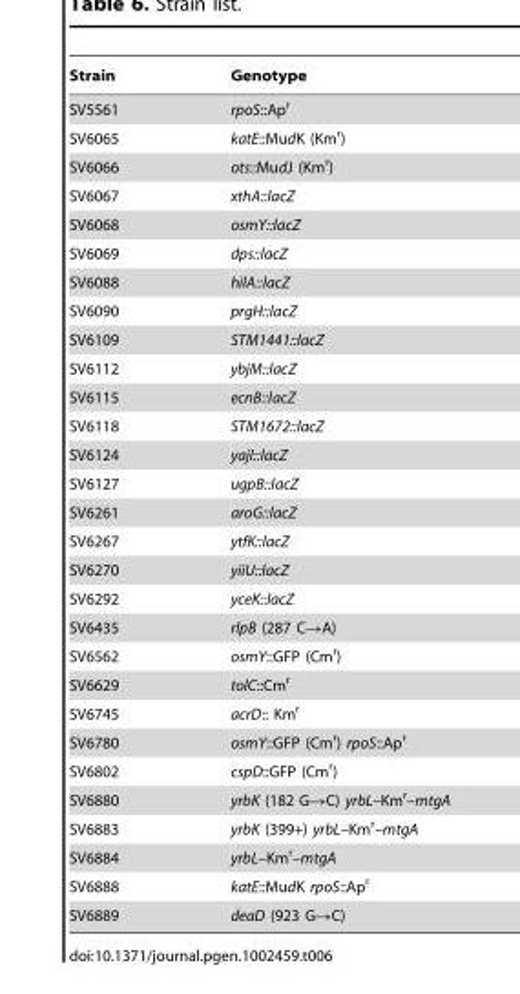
<table><thead><tr><td>Strain</td><td>Genotype</td></tr></thead><tbody><tr><td>SV5561</td><td>rpoS::Ap<sup>r</sup></td></tr><tr><td>SV6065</td><td>katE::MudK (Km<sup>r</sup>)</td></tr><tr><td>SV6066</td><td>ots::MudJ (Km<sup>r</sup>)</td></tr><tr><td>SV6067</td><td>xthA::lacZ</td></tr><tr><td>SV6068</td><td>osmY::lacZ</td></tr><tr><td>SV6069</td><td>dps::lacZ</td></tr><tr><td>SV6088</td><td>hilA::lacZ</td></tr><tr><td>SV6090</td><td>prgH::lacZ</td></tr><tr><td>SV6109</td><td>STM1441::lacZ</td></tr><tr><td>SV6112</td><td>ybjM::lacZ</td></tr><tr><td>SV6115</td><td>ecnB::lacZ</td></tr><tr><td>SV6118</td><td>STM1672::lacZ</td></tr><tr><td>SV6124</td><td>yajI::lacZ</td></tr><tr><td>SV6127</td><td>ugpB::lacZ</td></tr><tr><td>SV6261</td><td>aroG::lacZ</td></tr><tr><td>SV6267</td><td>ytfK::lacZ</td></tr><tr><td>SV6270</td><td>yiiU::lacZ</td></tr><tr><td>SV6292</td><td>yceK::lacZ</td></tr><tr><td>SV6435</td><td>rlpB (287 C→A)</td></tr><tr><td>SV6562</td><td>osmY::GFP (Cm<sup>r</sup>)</td></tr><tr><td>SV6629</td><td>tolC::Cm<sup>r</sup></td></tr><tr><td>SV6745</td><td>acrD:: Km<sup>r</sup></td></tr><tr><td>SV6780</td><td>osmY::GFP (Cm<sup>r</sup>) rpoS::Ap<sup>r</sup></td></tr><tr><td>SV6802</td><td>cspD::GFP (Cm<sup>r</sup>)</td></tr><tr><td>SV6880</td><td>yrbK (182 G→C) yrbL–Km<sup>r</sup>–mtgA</td></tr><tr><td>SV6883</td><td>yrbK (399+) yrbL–Km<sup>r</sup>–mtgA</td></tr><tr><td>SV6884</td><td>yrbL–Km<sup>r</sup>–mtgA</td></tr><tr><td>SV6888</td><td>katE::MudK rpoS::Ap<sup>r</sup></td></tr><tr><td>SV6889</td><td>deaD (923 G→C)</td></tr></tbody></table>